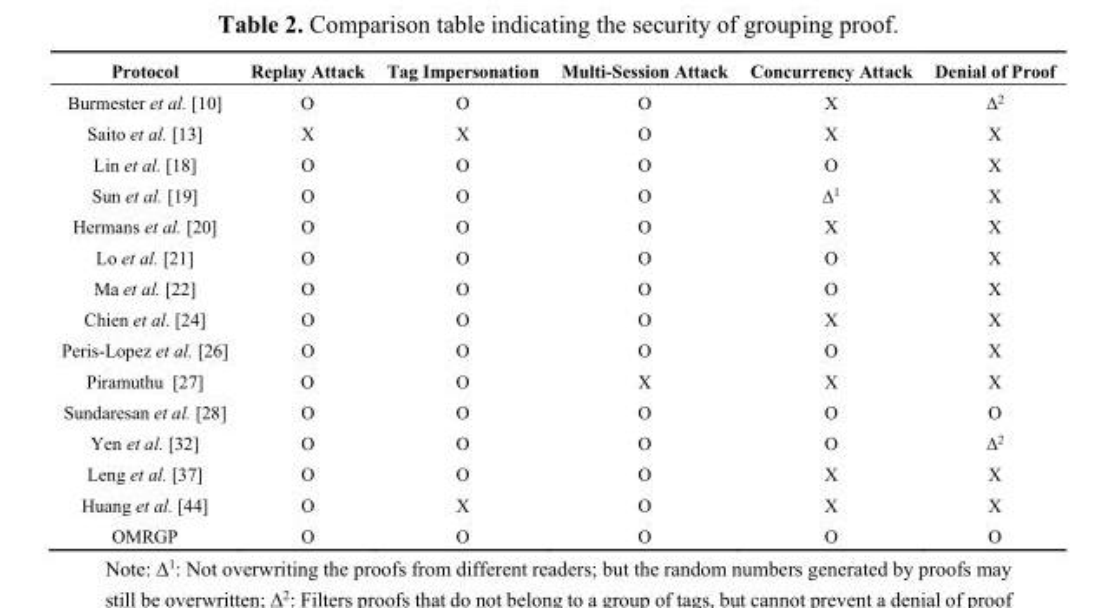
<table><thead><tr><td>Protocol</td><td>Replay Attack</td><td>Tag Impersonation</td><td>Multi-Session Attack</td><td>Concurrency Attack</td><td>Denial of Proof</td></tr></thead><tbody><tr><td>Burmester et al. [10]</td><td>O</td><td>O</td><td>O</td><td>X</td><td>∆<sup>2</sup></td></tr><tr><td>Saito et al. [13]</td><td>X</td><td>X</td><td>O</td><td>X</td><td>X</td></tr><tr><td>Lin et al. [18]</td><td>O</td><td>O</td><td>O</td><td>O</td><td>X</td></tr><tr><td>Sun et al. [19]</td><td>O</td><td>O</td><td>O</td><td>∆<sup>1</sup></td><td>X</td></tr><tr><td>Hermans et al. [20]</td><td>O</td><td>O</td><td>O</td><td>X</td><td>X</td></tr><tr><td>Lo et al. [21]</td><td>O</td><td>O</td><td>O</td><td>O</td><td>X</td></tr><tr><td>Ma et al. [22]</td><td>O</td><td>O</td><td>O</td><td>O</td><td>X</td></tr><tr><td>Chien et al. [24]</td><td>O</td><td>O</td><td>O</td><td>X</td><td>X</td></tr><tr><td>Peris-Lopez et al. [26]</td><td>O</td><td>O</td><td>O</td><td>O</td><td>X</td></tr><tr><td>Piramuthu [27]</td><td>O</td><td>O</td><td>X</td><td>X</td><td>X</td></tr><tr><td>Sundaresan et al. [28]</td><td>O</td><td>O</td><td>O</td><td>O</td><td>O</td></tr><tr><td>Yen et al. [32]</td><td>O</td><td>O</td><td>O</td><td>O</td><td>∆<sup>2</sup></td></tr><tr><td>Leng et al. [37]</td><td>O</td><td>O</td><td>O</td><td>X</td><td>X</td></tr><tr><td>Huang et al. [44]</td><td>O</td><td>X</td><td>O</td><td>X</td><td>X</td></tr><tr><td>OMRGP</td><td>O</td><td>O</td><td>O</td><td>O</td><td>O</td></tr></tbody></table>